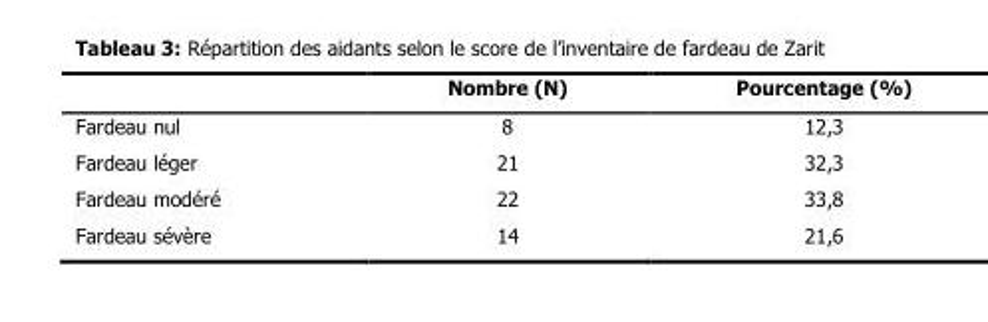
<table><thead><tr><td></td><td>Nombre (N)</td><td>Pourcentage (%)</td></tr></thead><tbody><tr><td>Fardeau nul</td><td>8</td><td>12,3</td></tr><tr><td>Fardeau léger</td><td>21</td><td>32,3</td></tr><tr><td>Fardeau modéré</td><td>22</td><td>33,8</td></tr><tr><td>Fardeau sévère</td><td>14</td><td>21,6</td></tr></tbody></table>